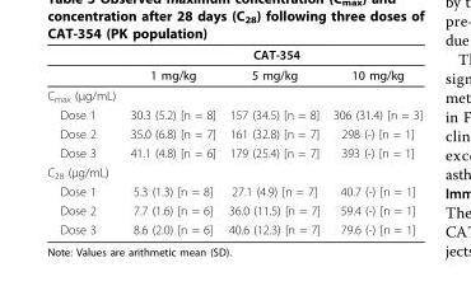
<table><thead><tr><td rowspan="2"></td><td colspan="3">CAT-354</td></tr><tr><td>1 mg/kg</td><td>5 mg/kg</td><td>10 mg/kg</td></tr></thead><tbody><tr><td colspan="4">C<sub>max</sub> (μg/mL)</td></tr><tr><td>Dose 1</td><td>30.3 (5.2) [n = 8]</td><td>157 (34.5) [n = 8]</td><td>306 (31.4) [n = 3]</td></tr><tr><td>Dose 2</td><td>35.0 (6.8) [n = 7]</td><td>161 (32.8) [n = 7]</td><td>298 (-) [n = 1]</td></tr><tr><td>Dose 3</td><td>41.1 (4.8) [n = 6]</td><td>179 (25.4) [n = 7]</td><td>393 (-) [n = 1]</td></tr><tr><td colspan="4">C<sub>28</sub> (μg/mL)</td></tr><tr><td>Dose 1</td><td>5.3 (1.3) [n = 8]</td><td>27.1 (4.9) [n = 7]</td><td>40.7 (-) [n = 1]</td></tr><tr><td>Dose 2</td><td>7.7 (1.6) [n = 6]</td><td>36.0 (11.5) [n = 7]</td><td>59.4 (-) [n = 1]</td></tr><tr><td>Dose 3</td><td>8.6 (2.0) [n = 6]</td><td>40.6 (12.3) [n = 7]</td><td>79.6 (-) [n = 1]</td></tr></tbody></table>